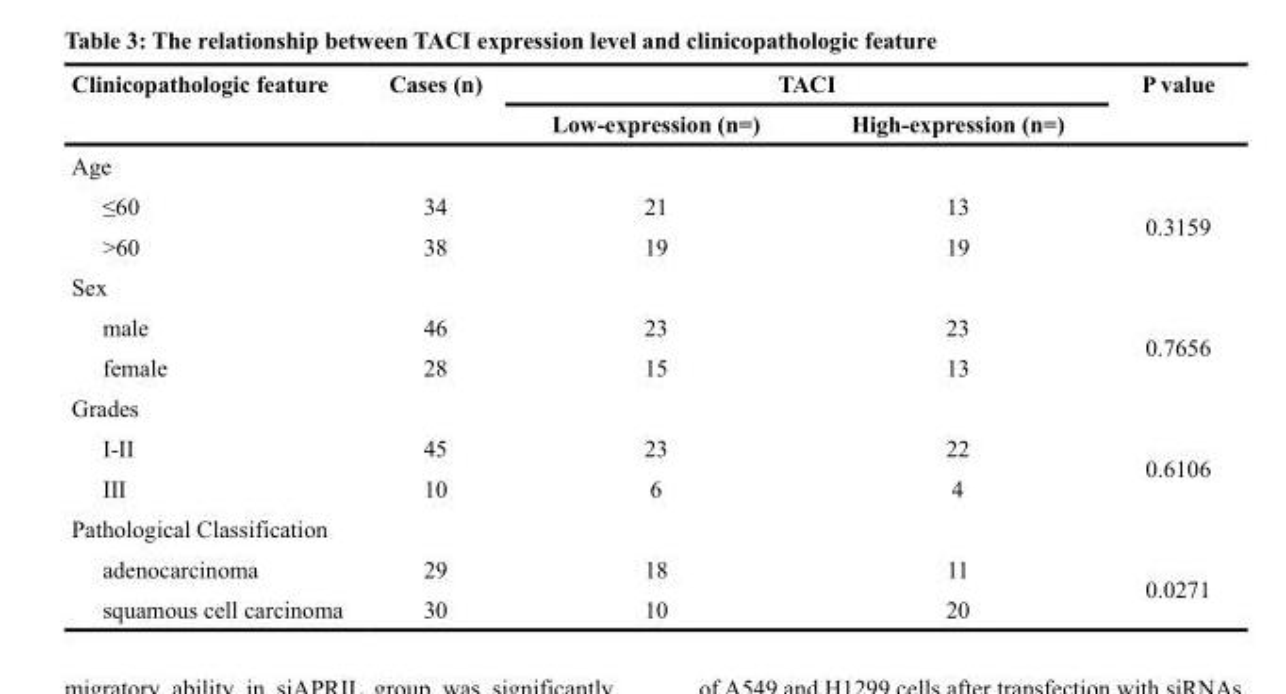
<table><thead><tr><td rowspan="2">Clinicopathologic feature</td><td rowspan="2">Cases (n)</td><td colspan="2">TACI</td><td rowspan="2">P value</td></tr><tr><td>Low-expression (n=)</td><td>High-expression (n=)</td></tr></thead><tbody><tr><td colspan="5">Age</td></tr><tr><td>≤60</td><td>34</td><td>21</td><td>13</td><td rowspan="2">0.3159</td></tr><tr><td>&gt;60</td><td>38</td><td>19</td><td>19</td></tr><tr><td colspan="5">Sex</td></tr><tr><td>male</td><td>46</td><td>23</td><td>23</td><td rowspan="2">0.7656</td></tr><tr><td>female</td><td>28</td><td>15</td><td>13</td></tr><tr><td colspan="5">Grades</td></tr><tr><td>I-II</td><td>45</td><td>23</td><td>22</td><td rowspan="2">0.6106</td></tr><tr><td>III</td><td>10</td><td>6</td><td>4</td></tr><tr><td colspan="5">Pathological Classification</td></tr><tr><td>adenocarcinoma</td><td>29</td><td>18</td><td>11</td><td rowspan="2">0.0271</td></tr><tr><td>squamous cell carcinoma</td><td>30</td><td>10</td><td>20</td></tr></tbody></table>